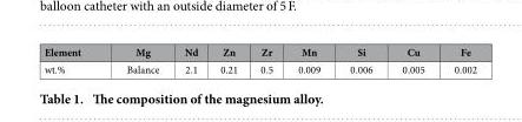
<table><thead><tr><td>Element</td><td>Mg</td><td>Nd</td><td>Zn</td><td>Zr</td><td>Mn</td><td>Si</td><td>Cu</td><td>Fe</td></tr></thead><tbody><tr><td>wt.%</td><td>Balance</td><td>2.1</td><td>0.21</td><td>0.5</td><td>0.009</td><td>0.006</td><td>0.005</td><td>0.002</td></tr></tbody></table>